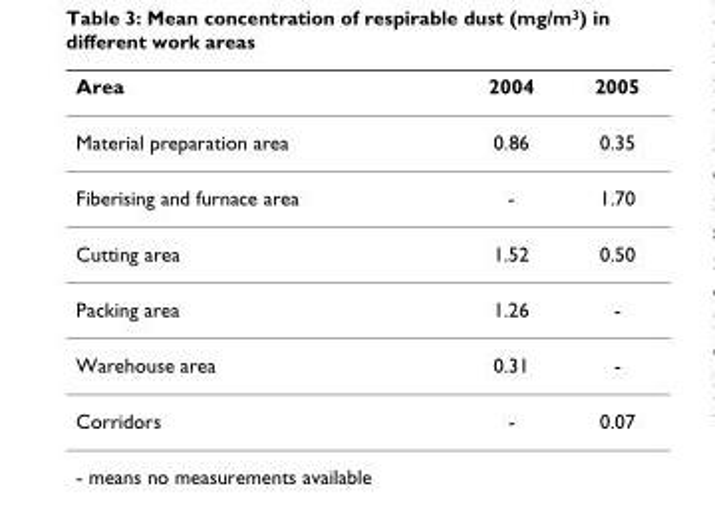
<table><thead><tr><td>Area</td><td>2004</td><td>2005</td></tr></thead><tbody><tr><td>Material preparation area</td><td>0.86</td><td>0.35</td></tr><tr><td>Fiberising and furnace area</td><td>-</td><td>1.70</td></tr><tr><td>Cutting area</td><td>1.52</td><td>0.50</td></tr><tr><td>Packing area</td><td>1.26</td><td>-</td></tr><tr><td>Warehouse area</td><td>0.31</td><td>-</td></tr><tr><td>Corridors</td><td>-</td><td>0.07</td></tr></tbody></table>